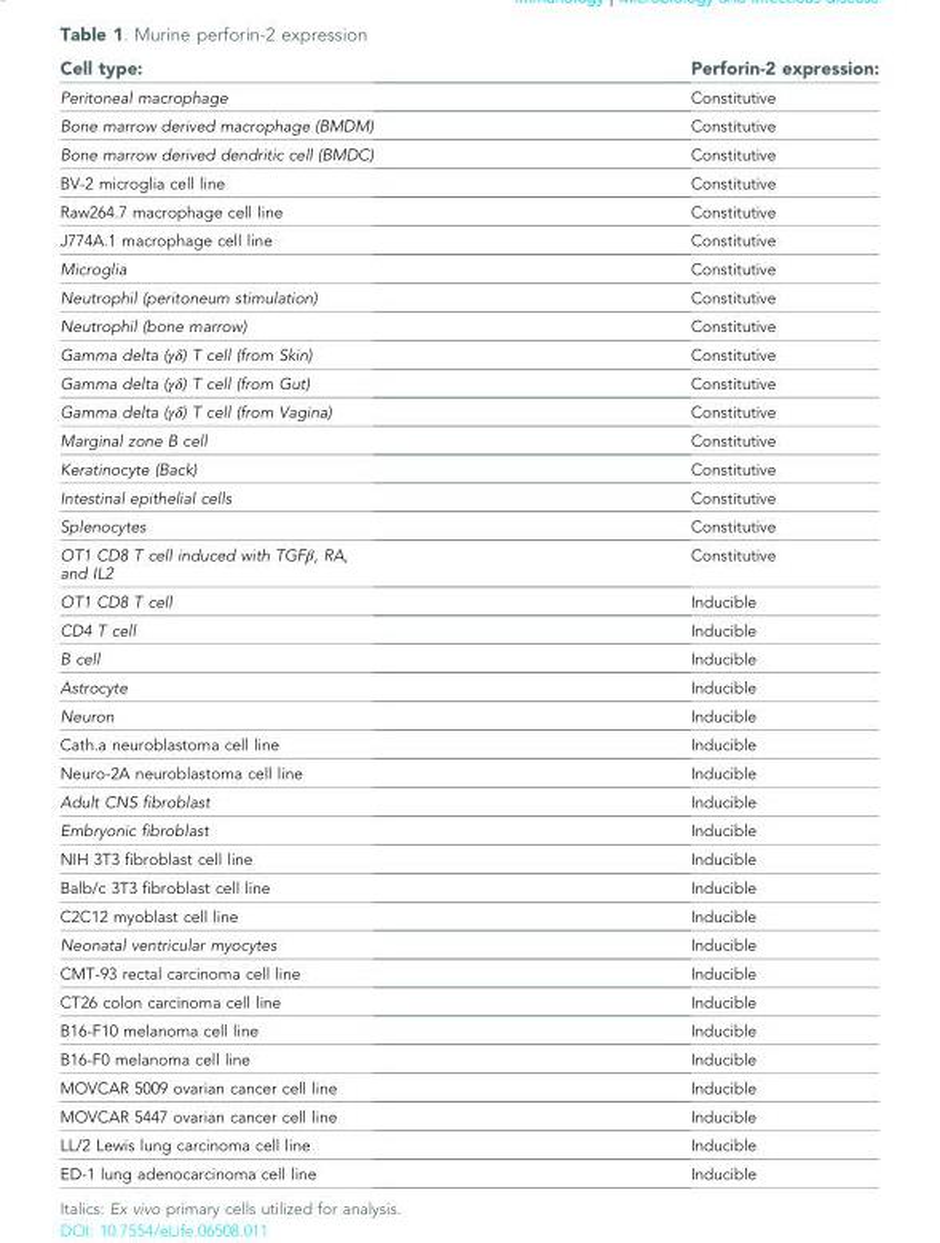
<table><thead><tr><td>Cell type:</td><td>Perforin-2 expression:</td></tr></thead><tbody><tr><td>Peritoneal macrophage</td><td>Constitutive</td></tr><tr><td>Bone marrow derived macrophage (BMDM)</td><td>Constitutive</td></tr><tr><td>Bone marrow derived dendritic cell (BMDC)</td><td>Constitutive</td></tr><tr><td>BV-2 microglia cell line</td><td>Constitutive</td></tr><tr><td>Raw264.7 macrophage cell line</td><td>Constitutive</td></tr><tr><td>J774A.1 macrophage cell line</td><td>Constitutive</td></tr><tr><td>Microglia</td><td>Constitutive</td></tr><tr><td>Neutrophil (peritoneum stimulation)</td><td>Constitutive</td></tr><tr><td>Neutrophil (bone marrow)</td><td>Constitutive</td></tr><tr><td>Gamma delta (γδ) T cell (from Skin)</td><td>Constitutive</td></tr><tr><td>Gamma delta (γδ) T cell (from Gut)</td><td>Constitutive</td></tr><tr><td>Gamma delta (γδ) T cell (from Vagina)</td><td>Constitutive</td></tr><tr><td>Marginal zone B cell</td><td>Constitutive</td></tr><tr><td>Keratinocyte (Back)</td><td>Constitutive</td></tr><tr><td>Intestinal epithelial cells</td><td>Constitutive</td></tr><tr><td>Splenocytes</td><td>Constitutive</td></tr><tr><td>OT1 CD8 T cell induced with TGFβ, RA, and IL2</td><td>Constitutive</td></tr><tr><td>OT1 CD8 T cell</td><td>Inducible</td></tr><tr><td>CD4 T cell</td><td>Inducible</td></tr><tr><td>B cell</td><td>Inducible</td></tr><tr><td>Astrocyte</td><td>Inducible</td></tr><tr><td>Neuron</td><td>Inducible</td></tr><tr><td>Cath.a neuroblastoma cell line</td><td>Inducible</td></tr><tr><td>Neuro-2A neuroblastoma cell line</td><td>Inducible</td></tr><tr><td>Adult CNS fibroblast</td><td>Inducible</td></tr><tr><td>Embryonic fibroblast</td><td>Inducible</td></tr><tr><td>NIH 3T3 fibroblast cell line</td><td>Inducible</td></tr><tr><td>Balb/c 3T3 fibroblast cell line</td><td>Inducible</td></tr><tr><td>C2C12 myoblast cell line</td><td>Inducible</td></tr><tr><td>Neonatal ventricular myocytes</td><td>Inducible</td></tr><tr><td>CMT-93 rectal carcinoma cell line</td><td>Inducible</td></tr><tr><td>CT26 colon carcinoma cell line</td><td>Inducible</td></tr><tr><td>B16-F10 melanoma cell line</td><td>Inducible</td></tr><tr><td>B16-F0 melanoma cell line</td><td>Inducible</td></tr><tr><td>MOVCAR 5009 ovarian cancer cell line</td><td>Inducible</td></tr><tr><td>MOVCAR 5447 ovarian cancer cell line</td><td>Inducible</td></tr><tr><td>LL/2 Lewis lung carcinoma cell line</td><td>Inducible</td></tr><tr><td>ED-1 lung adenocarcinoma cell line</td><td>Inducible</td></tr></tbody></table>